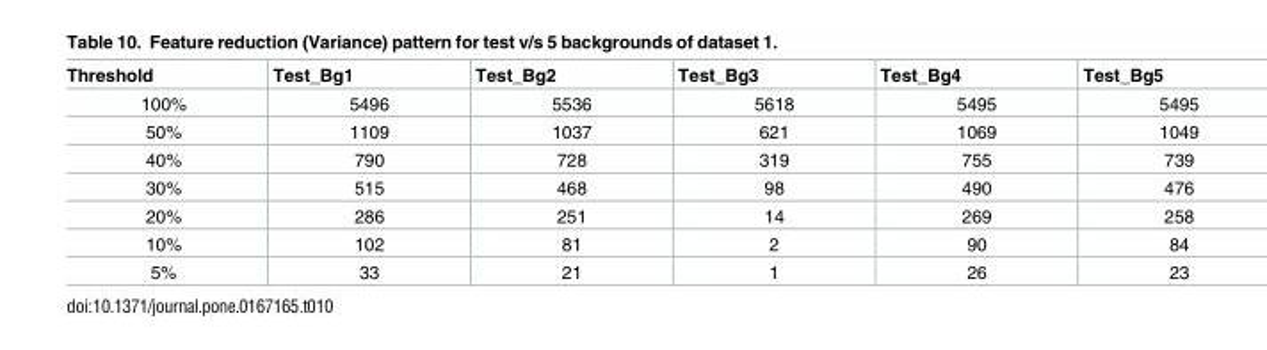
<table><thead><tr><td>Threshold</td><td>Test_Bg1</td><td>Test_Bg2</td><td>Test_Bg3</td><td>Test_Bg4</td><td>Test_Bg5</td></tr></thead><tbody><tr><td>100%</td><td>5496</td><td>5536</td><td>5618</td><td>5495</td><td>5495</td></tr><tr><td>50%</td><td>1109</td><td>1037</td><td>621</td><td>1069</td><td>1049</td></tr><tr><td>40%</td><td>790</td><td>728</td><td>319</td><td>755</td><td>739</td></tr><tr><td>30%</td><td>515</td><td>468</td><td>98</td><td>490</td><td>476</td></tr><tr><td>20%</td><td>286</td><td>251</td><td>14</td><td>269</td><td>258</td></tr><tr><td>10%</td><td>102</td><td>81</td><td>2</td><td>90</td><td>84</td></tr><tr><td>5%</td><td>33</td><td>21</td><td>1</td><td>26</td><td>23</td></tr></tbody></table>